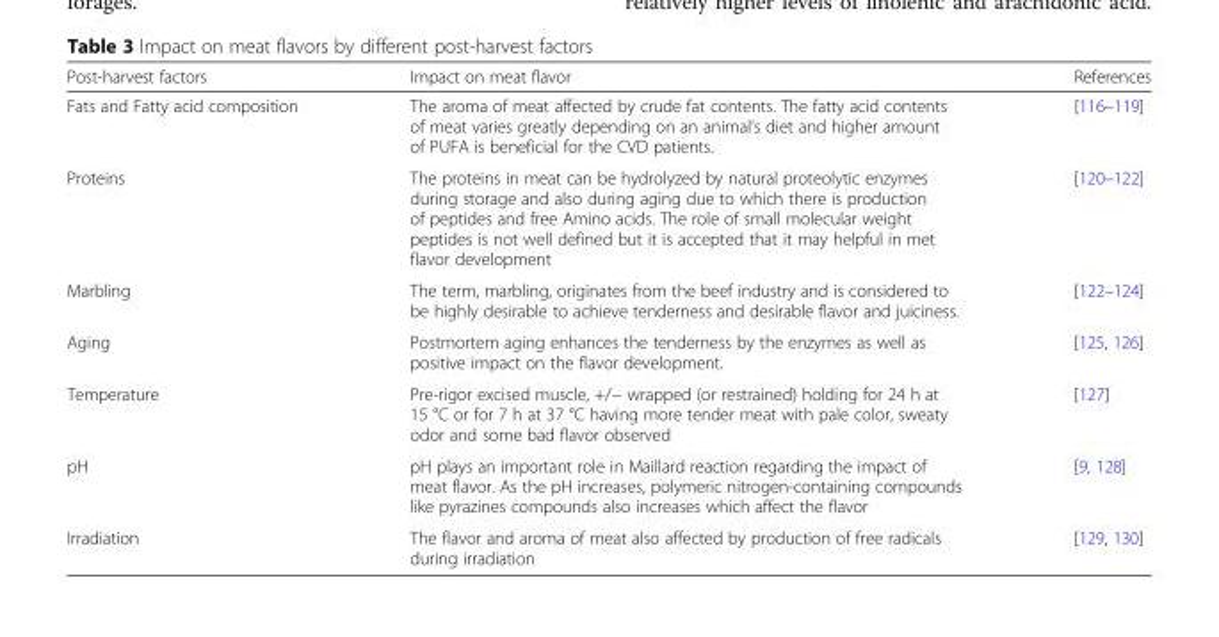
<table><thead><tr><td>Post-harvest factors</td><td>Impact on meat flavor</td><td>References</td></tr></thead><tbody><tr><td>Fats and Fatty acid composition</td><td>The aroma of meat affected by crude fat contents. The fatty acid contents of meat varies greatly depending on an animal’s diet and higher amount of PUFA is beneficial for the CVD patients.</td><td>[116–119]</td></tr><tr><td>Proteins</td><td>The proteins in meat can be hydrolyzed by natural proteolytic enzymes during storage and also during aging due to which there is production of peptides and free Amino acids. The role of small molecular weight peptides is not well defined but it is accepted that it may helpful in met flavor development</td><td>[120–122]</td></tr><tr><td>Marbling</td><td>The term, marbling, originates from the beef industry and is considered to be highly desirable to achieve tenderness and desirable flavor and juiciness.</td><td>[122–124]</td></tr><tr><td>Aging</td><td>Postmortem aging enhances the tenderness by the enzymes as well as positive impact on the flavor development.</td><td>[125, 126]</td></tr><tr><td>Temperature</td><td>Pre-rigor excised muscle, +/− wrapped (or restrained) holding for 24 h at 15 °C or for 7 h at 37 °C having more tender meat with pale color, sweaty odor and some bad flavor observed</td><td>[127]</td></tr><tr><td>pH</td><td>pH plays an important role in Maillard reaction regarding the impact of meat flavor. As the pH increases, polymeric nitrogen-containing compounds like pyrazines compounds also increases which affect the flavor</td><td>[9, 128]</td></tr><tr><td>Irradiation</td><td>The flavor and aroma of meat also affected by production of free radicals during irradiation</td><td>[129, 130]</td></tr></tbody></table>